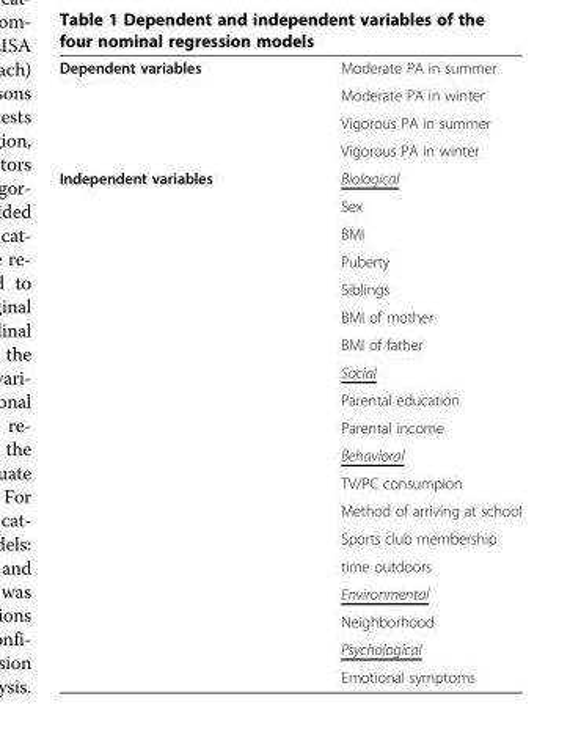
<table><tbody><tr><td rowspan="4">Dependent variables</td><td>Moderate PA in summer</td></tr><tr><td>Moderate PA in winter</td></tr><tr><td>Vigorous PA in summer</td></tr><tr><td>Vigorous PA in winter</td></tr><tr><td rowspan="19">Independent variables</td><td>Biological</td></tr><tr><td>Sex</td></tr><tr><td>BMI</td></tr><tr><td>Puberty</td></tr><tr><td>Siblings</td></tr><tr><td>BMI of mother</td></tr><tr><td>BMI of father</td></tr><tr><td>Social</td></tr><tr><td>Parental education</td></tr><tr><td>Parental income</td></tr><tr><td>Behavioral</td></tr><tr><td>TV/PC consumpion</td></tr><tr><td>Method of arriving at school</td></tr><tr><td>Sports club membership</td></tr><tr><td>time outdoors</td></tr><tr><td>Environmental</td></tr><tr><td>Neighborhood</td></tr><tr><td>Psychological</td></tr><tr><td>Emotional symptoms</td></tr></tbody></table>